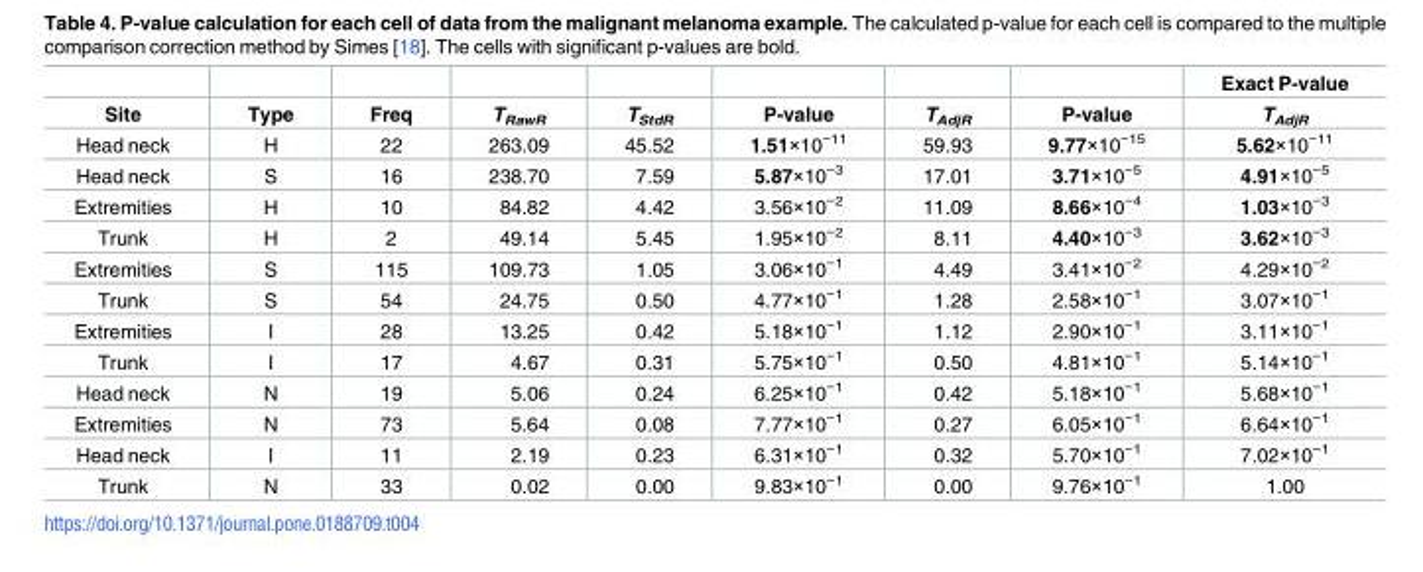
<table><thead><tr><td rowspan="2">Site</td><td rowspan="2">Type</td><td rowspan="2">Freq</td><td rowspan="2">T<sub>RawR</sub></td><td rowspan="2">T<sub>StdR</sub></td><td rowspan="2">P-value</td><td rowspan="2">T<sub>AdjR</sub></td><td rowspan="2">P-value</td><td rowspan="2">Exact P-value T<sub>AdjR</sub></td></tr><tr></tr></thead><tbody><tr><td>Head neck</td><td>H</td><td>22</td><td>263.09</td><td>45.52</td><td>1.51×10<sup>−11</sup></td><td>59.93</td><td>9.77×10<sup>−15</sup></td><td>5.62×10<sup>−11</sup></td></tr><tr><td>Head neck</td><td>S</td><td>16</td><td>238.70</td><td>7.59</td><td>5.87×10<sup>−3</sup></td><td>17.01</td><td>3.71×10<sup>−5</sup></td><td>4.91×10<sup>−5</sup></td></tr><tr><td>Extremities</td><td>H</td><td>10</td><td>84.82</td><td>4.42</td><td>3.56×10<sup>−2</sup></td><td>11.09</td><td>8.66×10<sup>−4</sup></td><td>1.03×10<sup>−3</sup></td></tr><tr><td>Trunk</td><td>H</td><td>2</td><td>49.14</td><td>5.45</td><td>1.95×10<sup>−2</sup></td><td>8.11</td><td>4.40×10<sup>−3</sup></td><td>3.62×10<sup>−3</sup></td></tr><tr><td>Extremities</td><td>S</td><td>115</td><td>109.73</td><td>1.05</td><td>3.06×10<sup>−1</sup></td><td>4.49</td><td>3.41×10<sup>−2</sup></td><td>4.29×10<sup>−2</sup></td></tr><tr><td>Trunk</td><td>S</td><td>54</td><td>24.75</td><td>0.50</td><td>4.77×10<sup>−1</sup></td><td>1.28</td><td>2.58×10<sup>−1</sup></td><td>3.07×10<sup>−1</sup></td></tr><tr><td>Extremities</td><td>I</td><td>28</td><td>13.25</td><td>0.42</td><td>5.18×10<sup>−1</sup></td><td>1.12</td><td>2.90×10<sup>−1</sup></td><td>3.11×10<sup>−1</sup></td></tr><tr><td>Trunk</td><td>I</td><td>17</td><td>4.67</td><td>0.31</td><td>5.75×10<sup>−1</sup></td><td>0.50</td><td>4.81×10<sup>−1</sup></td><td>5.14×10<sup>−1</sup></td></tr><tr><td>Head neck</td><td>N</td><td>19</td><td>5.06</td><td>0.24</td><td>6.25×10<sup>−1</sup></td><td>0.42</td><td>5.18×10<sup>−1</sup></td><td>5.68×10<sup>−1</sup></td></tr><tr><td>Extremities</td><td>N</td><td>73</td><td>5.64</td><td>0.08</td><td>7.77×10<sup>−1</sup></td><td>0.27</td><td>6.05×10<sup>−1</sup></td><td>6.64×10<sup>−1</sup></td></tr><tr><td>Head neck</td><td>I</td><td>11</td><td>2.19</td><td>0.23</td><td>6.31×10<sup>−1</sup></td><td>0.32</td><td>5.70×10<sup>−1</sup></td><td>7.02×10<sup>−1</sup></td></tr><tr><td>Trunk</td><td>N</td><td>33</td><td>0.02</td><td>0.00</td><td>9.83×10<sup>−1</sup></td><td>0.00</td><td>9.76×10<sup>−1</sup></td><td>1.00</td></tr></tbody></table>